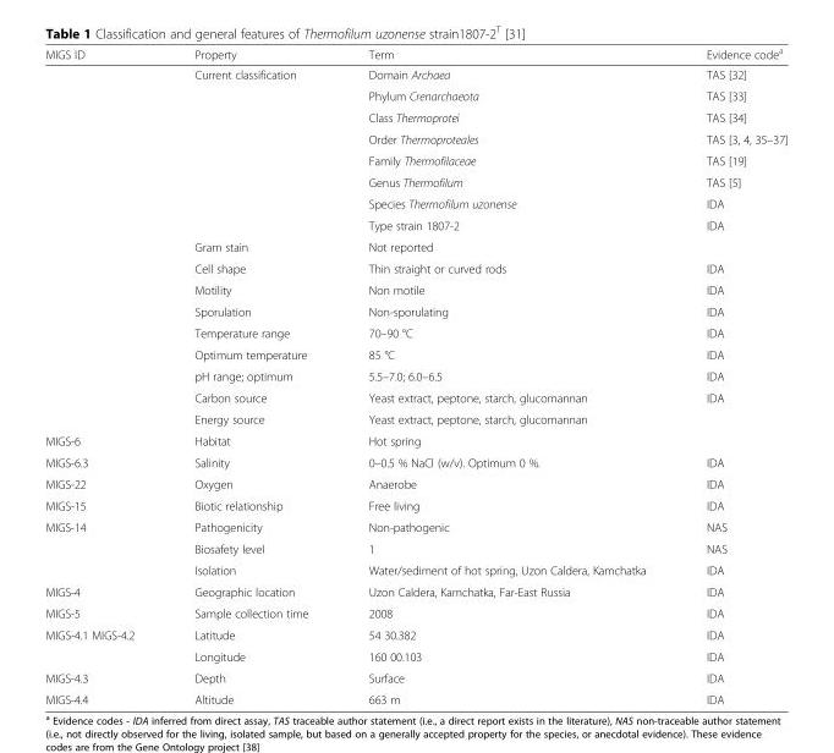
<table><thead><tr><td>MIGS ID</td><td>Property</td><td>Term</td><td>Evidence code<sup>a</sup></td></tr></thead><tbody><tr><td rowspan="8"></td><td rowspan="8">Current classification</td><td>Domain Archaea</td><td>TAS [32]</td></tr><tr><td>Phylum Crenarchaeota</td><td>TAS [33]</td></tr><tr><td>Class Thermoprotei</td><td>TAS [34]</td></tr><tr><td>Order Thermoproteales</td><td>TAS [3, 4, 35–37]</td></tr><tr><td>Family Thermofilaceae</td><td>TAS [19]</td></tr><tr><td>Genus Thermofilum</td><td>TAS [5]</td></tr><tr><td>Species Thermofilum uzonense</td><td>IDA</td></tr><tr><td>Type strain 1807-2</td><td>IDA</td></tr><tr><td></td><td>Gram stain</td><td>Not reported</td><td></td></tr><tr><td></td><td>Cell shape</td><td>Thin straight or curved rods</td><td>IDA</td></tr><tr><td></td><td>Motility</td><td>Non motile</td><td>IDA</td></tr><tr><td></td><td>Sporulation</td><td>Non-sporulating</td><td>IDA</td></tr><tr><td></td><td>Temperature range</td><td>70–90 °C</td><td>IDA</td></tr><tr><td></td><td>Optimum temperature</td><td>85 °C</td><td>IDA</td></tr><tr><td></td><td>pH range; optimum</td><td>5.5–7.0; 6.0–6.5</td><td>IDA</td></tr><tr><td></td><td>Carbon source</td><td>Yeast extract, peptone, starch, glucomannan</td><td>IDA</td></tr><tr><td></td><td>Energy source</td><td>Yeast extract, peptone, starch, glucomannan</td><td></td></tr><tr><td>MIGS-6</td><td>Habitat</td><td>Hot spring</td><td></td></tr><tr><td>MIGS-6.3</td><td>Salinity</td><td>0–0.5 % NaCl (w/v). Optimum 0 %.</td><td>IDA</td></tr><tr><td>MIGS-22</td><td>Oxygen</td><td>Anaerobe</td><td>IDA</td></tr><tr><td>MIGS-15</td><td>Biotic relationship</td><td>Free living</td><td>IDA</td></tr><tr><td rowspan="3">MIGS-14</td><td>Pathogenicity</td><td>Non-pathogenic</td><td>NAS</td></tr><tr><td>Biosafety level</td><td>1</td><td>NAS</td></tr><tr><td>Isolation</td><td>Water/sediment of hot spring, Uzon Caldera, Kamchatka</td><td>IDA</td></tr><tr><td>MIGS-4</td><td>Geographic location</td><td>Uzon Caldera, Kamchatka, Far-East Russia</td><td>IDA</td></tr><tr><td>MIGS-5</td><td>Sample collection time</td><td>2008</td><td>IDA</td></tr><tr><td rowspan="2">MIGS-4.1 MIGS-4.2</td><td>Latitude</td><td>54 30.382</td><td>IDA</td></tr><tr><td>Longitude</td><td>160 00.103</td><td>IDA</td></tr><tr><td>MIGS-4.3</td><td>Depth</td><td>Surface</td><td>IDA</td></tr><tr><td>MIGS-4.4</td><td>Altitude</td><td>663 m</td><td>IDA</td></tr></tbody></table>